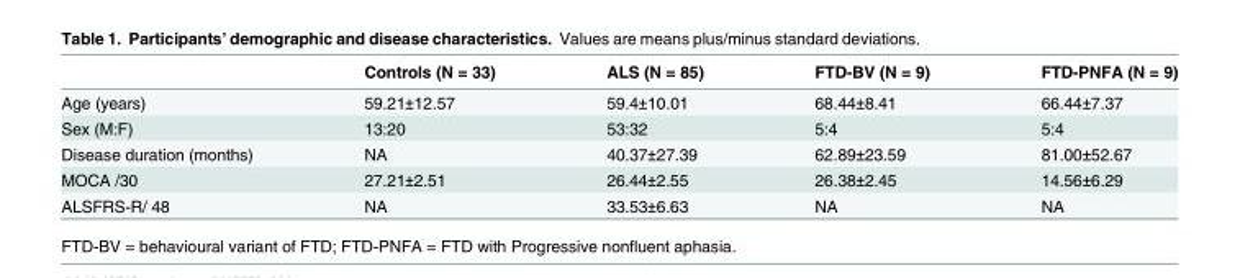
<table><thead><tr><td></td><td>Controls (N = 33)</td><td>ALS (N = 85)</td><td>FTD-BV (N = 9)</td><td>FTD-PNFA (N = 9)</td></tr></thead><tbody><tr><td>Age (years)</td><td>59.21±12.57</td><td>59.4±10.01</td><td>68.44±8.41</td><td>66.44±7.37</td></tr><tr><td>Sex (M:F)</td><td>13:20</td><td>53:32</td><td>5:4</td><td>5:4</td></tr><tr><td>Disease duration (months)</td><td>NA</td><td>40.37±27.39</td><td>62.89±23.59</td><td>81.00±52.67</td></tr><tr><td>MOCA /30</td><td>27.21±2.51</td><td>26.44±2.55</td><td>26.38±2.45</td><td>14.56±6.29</td></tr><tr><td>ALSFRS-R/ 48</td><td>NA</td><td>33.53±6.63</td><td>NA</td><td>NA</td></tr></tbody></table>